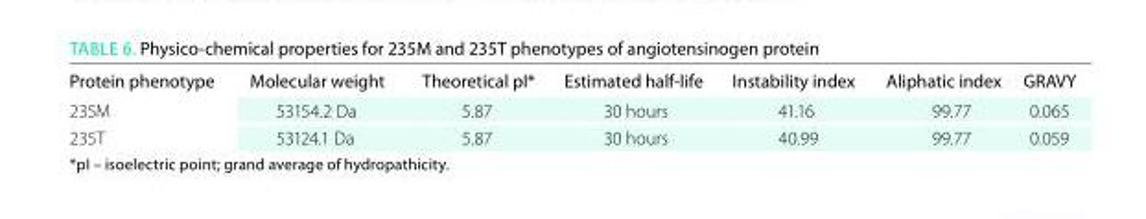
<table><thead><tr><td>Protein phenotype</td><td>Molecular weight</td><td>theoretical pI*</td><td>estimated half-life</td><td>Instability index</td><td>Aliphatic index</td><td>GRAVY</td></tr></thead><tbody><tr><td>235M</td><td>53154.2 Da</td><td>5.87</td><td>30 hours</td><td>41.16</td><td>99.77</td><td>0.065</td></tr><tr><td>235T</td><td>53124.1 Da</td><td>5.87</td><td>30 hours</td><td>40.99</td><td>99.77</td><td>0.059</td></tr></tbody></table>